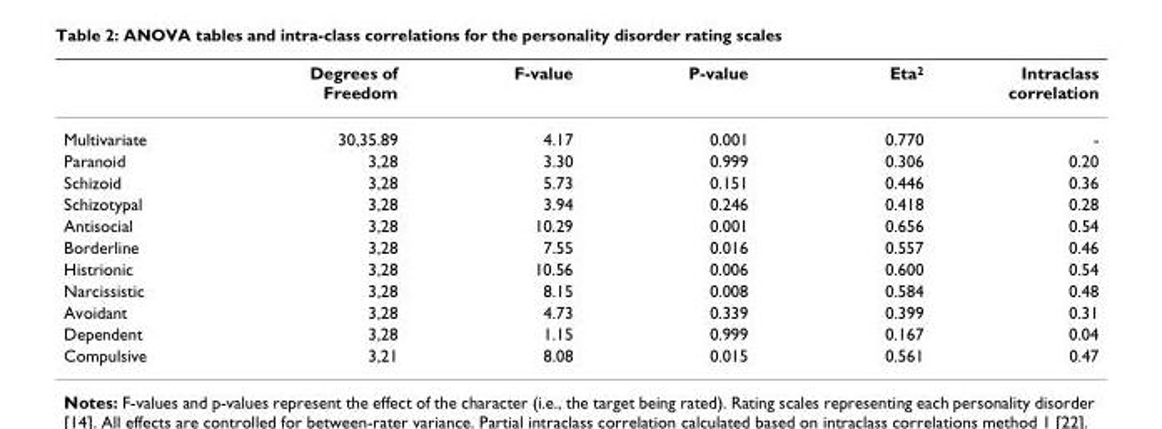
<table><thead><tr><td></td><td>Degrees of Freedom</td><td>F-value</td><td>P-value</td><td>Eta<sup>2</sup></td><td>Intraclass correlation</td></tr></thead><tbody><tr><td>Multivariate</td><td>30,35.89</td><td>4.17</td><td>0.001</td><td>0.770</td><td>-</td></tr><tr><td>Paranoid</td><td>3,28</td><td>3.30</td><td>0.999</td><td>0.306</td><td>0.20</td></tr><tr><td>Schizoid</td><td>3,28</td><td>5.73</td><td>0.151</td><td>0.446</td><td>0.36</td></tr><tr><td>Schizotypal</td><td>3,28</td><td>3.94</td><td>0.246</td><td>0.418</td><td>0.28</td></tr><tr><td>Antisocial</td><td>3,28</td><td>10.29</td><td>0.001</td><td>0.656</td><td>0.54</td></tr><tr><td>Borderline</td><td>3,28</td><td>7.55</td><td>0.016</td><td>0.557</td><td>0.46</td></tr><tr><td>Histrionic</td><td>3,28</td><td>10.56</td><td>0.006</td><td>0.600</td><td>0.54</td></tr><tr><td>Narcissistic</td><td>3,28</td><td>8.15</td><td>0.008</td><td>0.584</td><td>0.48</td></tr><tr><td>Avoidant</td><td>3,28</td><td>4.73</td><td>0.339</td><td>0.399</td><td>0.31</td></tr><tr><td>Dependent</td><td>3,28</td><td>1.15</td><td>0.999</td><td>0.167</td><td>0.04</td></tr><tr><td>Compulsive</td><td>3,21</td><td>8.08</td><td>0.015</td><td>0.561</td><td>0.47</td></tr></tbody></table>